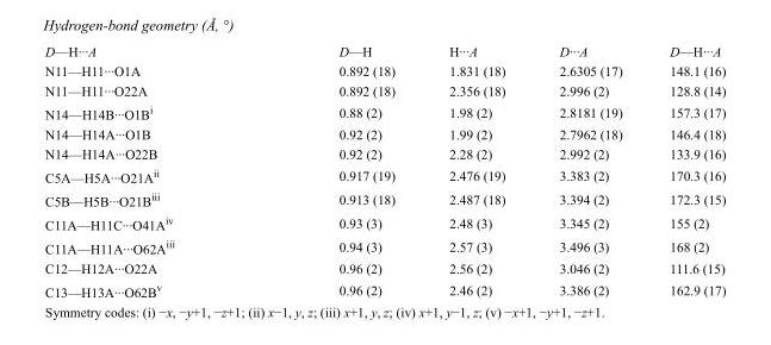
<table><tbody><tr><td>D—H···A</td><td>D—H</td><td>H···A</td><td>D···A</td><td>D—H···A</td></tr><tr><td>N11—H11···O1A</td><td>0.892 (18)</td><td>1.831 (18)</td><td>2.6305 (17)</td><td>148.1 (16)</td></tr><tr><td>N11—H11···O22A</td><td>0.892 (18)</td><td>2.356 (18)</td><td>2.996 (2)</td><td>128.8 (14)</td></tr><tr><td>N14—H14B···O1B<sup>i</sup></td><td>0.88 (2)</td><td>1.98 (2)</td><td>2.8181 (19)</td><td>157.3 (17)</td></tr><tr><td>N14—H14A···O1B</td><td>0.92 (2)</td><td>1.99 (2)</td><td>2.7962 (18)</td><td>146.4 (18)</td></tr><tr><td>N14—H14A···O22B</td><td>0.92 (2)</td><td>2.28 (2)</td><td>2.992 (2)</td><td>133.9 (16)</td></tr><tr><td>C5A—H5A···O21A<sup>ii</sup></td><td>0.917 (19)</td><td>2.476 (19)</td><td>3.383 (2)</td><td>170.3 (16)</td></tr><tr><td>C5B—H5B···O21B<sup>iii</sup></td><td>0.913 (18)</td><td>2.487 (18)</td><td>3.394 (2)</td><td>172.3 (15)</td></tr><tr><td>C11A—H11C···O41A<sup>iv</sup></td><td>0.93 (3)</td><td>2.48 (3)</td><td>3.345 (2)</td><td>155 (2)</td></tr><tr><td>C11A—H11A···O62A<sup>iii</sup></td><td>0.94 (3)</td><td>2.57 (3)</td><td>3.496 (3)</td><td>168 (2)</td></tr><tr><td>C12—H12A···O22A</td><td>0.96 (2)</td><td>2.56 (2)</td><td>3.046 (2)</td><td>111.6 (15)</td></tr><tr><td>C13—H13A···O62B<sup>v</sup></td><td>0.96 (2)</td><td>2.46 (2)</td><td>3.386 (2)</td><td>162.9 (17)</td></tr></tbody></table>